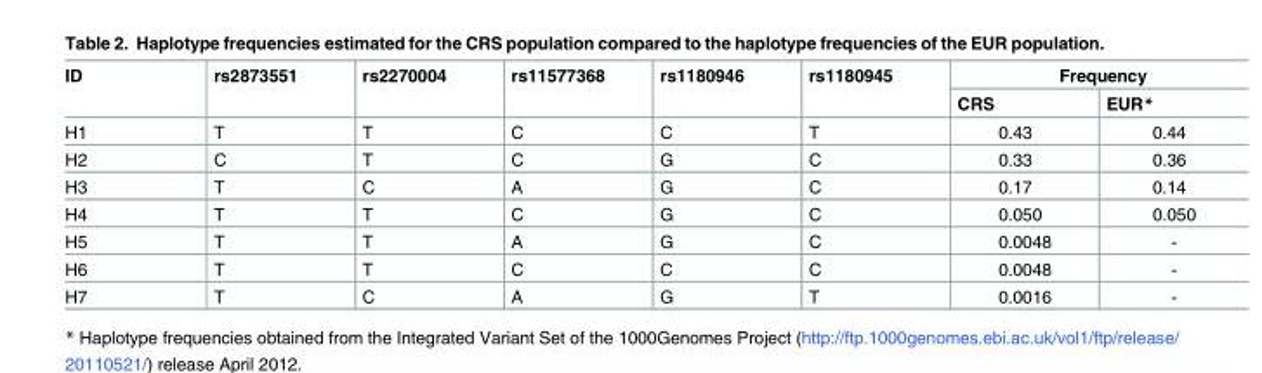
<table><thead><tr><td rowspan="2">ID</td><td rowspan="2">rs2873551</td><td rowspan="2">rs2270004</td><td rowspan="2">rs11577368</td><td rowspan="2">rs1180946</td><td rowspan="2">rs1180945</td><td colspan="2">Frequency</td></tr><tr><td>CRS</td><td>EUR*</td></tr></thead><tbody><tr><td>H1</td><td>T</td><td>T</td><td>C</td><td>C</td><td>T</td><td>0.43</td><td>0.44</td></tr><tr><td>H2</td><td>C</td><td>T</td><td>C</td><td>G</td><td>C</td><td>0.33</td><td>0.36</td></tr><tr><td>H3</td><td>T</td><td>C</td><td>A</td><td>G</td><td>C</td><td>0.17</td><td>0.14</td></tr><tr><td>H4</td><td>T</td><td>T</td><td>C</td><td>G</td><td>C</td><td>0.050</td><td>0.050</td></tr><tr><td>H5</td><td>T</td><td>T</td><td>A</td><td>G</td><td>C</td><td>0.0048</td><td>-</td></tr><tr><td>H6</td><td>T</td><td>T</td><td>C</td><td>C</td><td>C</td><td>0.0048</td><td>-</td></tr><tr><td>H7</td><td>T</td><td>C</td><td>A</td><td>G</td><td>T</td><td>0.0016</td><td>-</td></tr></tbody></table>